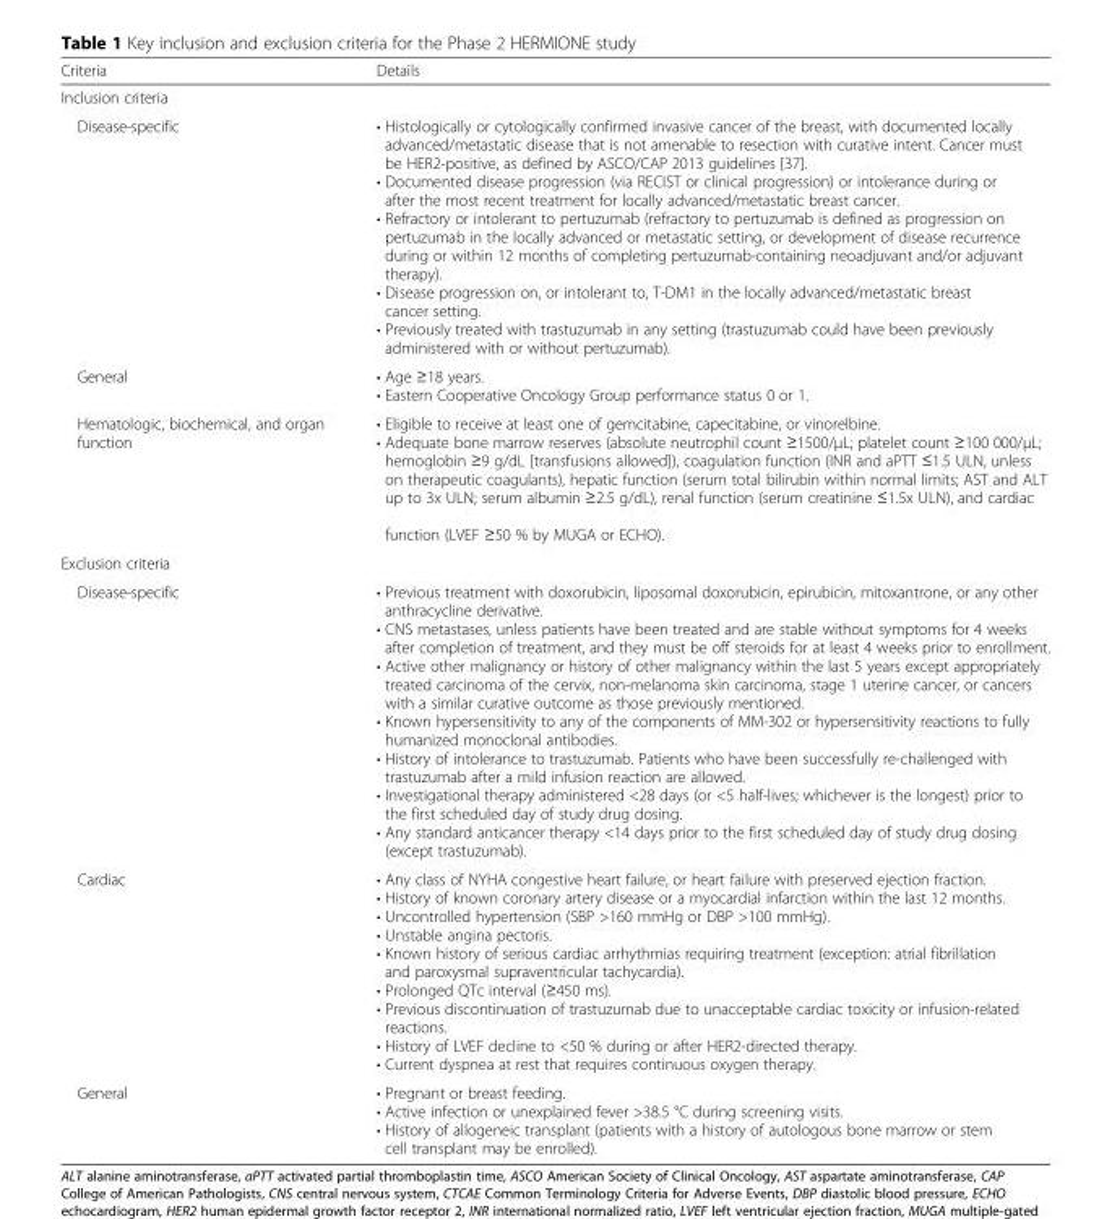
<table><thead><tr><td>Criteria</td><td>Details</td></tr></thead><tbody><tr><td colspan="2">Inclusion criteria</td></tr><tr><td>Disease-specific</td><td>• Histologically or cytologically confirmed invasive cancer of the breast, with documented locally advanced/metastatic disease that is not amenable to resection with curative intent. Cancer must be HER2-positive, as defined by ASCO/CAP 2013 guidelines [37]. • Documented disease progression (via RECIST or clinical progression) or intolerance during or after the most recent treatment for locally advanced/metastatic breast cancer. • Refractory or intolerant to pertuzumab (refractory to pertuzumab is defined as progression on pertuzumab in the locally advanced or metastatic setting, or development of disease recurrence during or within 12 months of completing pertuzumab-containing neoadjuvant and/or adjuvant therapy). • Disease progression on, or intolerant to, T-DM1 in the locally advanced/metastatic breast cancer setting. • Previously treated with trastuzumab in any setting (trastuzumab could have been previously administered with or without pertuzumab).</td></tr><tr><td>General</td><td>• Age ≥18 years. • Eastern Cooperative Oncology Group performance status 0 or 1.</td></tr><tr><td>Hematologic, biochemical, and organ function</td><td>• Eligible to receive at least one of gemcitabine, capecitabine, or vinorelbine. • Adequate bone marrow reserves (absolute neutrophil count ≥1500/μL; platelet count ≥100 000/μL; hemoglobin ≥9 g/dL [transfusions allowed]), coagulation function (INR and aPTT ≤1.5 ULN, unless on therapeutic coagulants), hepatic function (serum total bilirubin within normal limits; AST and ALT up to 3x ULN; serum albumin ≥2.5 g/dL), renal function (serum creatinine ≤1.5x ULN), and cardiac function (LVEF ≥50 % by MUGA or ECHO).</td></tr><tr><td colspan="2">Exclusion criteria</td></tr><tr><td>Disease-specific</td><td>• Previous treatment with doxorubicin, liposomal doxorubicin, epirubicin, mitoxantrone, or any other anthracycline derivative. • CNS metastases, unless patients have been treated and are stable without symptoms for 4 weeks after completion of treatment, and they must be off steroids for at least 4 weeks prior to enrollment. • Active other malignancy or history of other malignancy within the last 5 years except appropriately treated carcinoma of the cervix, non-melanoma skin carcinoma, stage 1 uterine cancer, or cancers with a similar curative outcome as those previously mentioned. • Known hypersensitivity to any of the components of MM-302 or hypersensitivity reactions to fully humanized monoclonal antibodies. • History of intolerance to trastuzumab. Patients who have been successfully re-challenged with trastuzumab after a mild infusion reaction are allowed. • Investigational therapy administered &lt;28 days (or &lt;5 half-lives; whichever is the longest) prior to the first scheduled day of study drug dosing. • Any standard anticancer therapy &lt;14 days prior to the first scheduled day of study drug dosing (except trastuzumab).</td></tr><tr><td>Cardiac</td><td>• Any class of NYHA congestive heart failure, or heart failure with preserved ejection fraction. • History of known coronary artery disease or a myocardial infarction within the last 12 months. • Uncontrolled hypertension (SBP &gt;160 mmHg or DBP &gt;100 mmHg). • Unstable angina pectoris. • Known history of serious cardiac arrhythmias requiring treatment (exception: atrial fibrillation and paroxysmal supraventricular tachycardia). • Prolonged QTc interval (≥450 ms). • Previous discontinuation of trastuzumab due to unacceptable cardiac toxicity or infusion-related reactions. • History of LVEF decline to &lt;50 % during or after HER2-directed therapy. • Current dyspnea at rest that requires continuous oxygen therapy.</td></tr><tr><td>General</td><td>• Pregnant or breast feeding. • Active infection or unexplained fever &gt;38.5 °C during screening visits. • History of allogeneic transplant (patients with a history of autologous bone marrow or stem cell transplant may be enrolled).</td></tr></tbody></table>